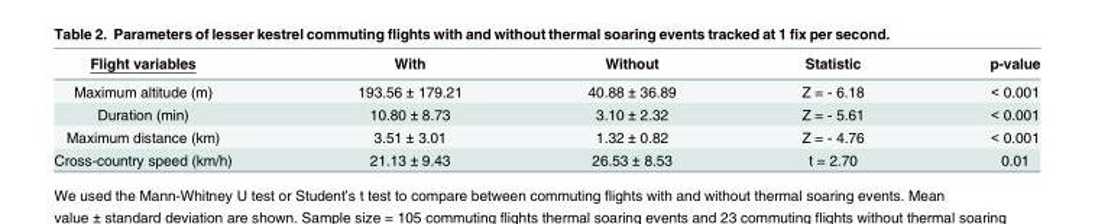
<table><thead><tr><td>Flight variables</td><td>With</td><td>Without</td><td>Statistic</td><td>p-value</td></tr></thead><tbody><tr><td>Maximum altitude (m)</td><td>193.56 ± 179.21</td><td>40.88 ± 36.89</td><td>Z = - 6.18</td><td>&lt; 0.001</td></tr><tr><td>Duration (min)</td><td>10.80 ± 8.73</td><td>3.10 ± 2.32</td><td>Z = - 5.61</td><td>&lt; 0.001</td></tr><tr><td>Maximum distance (km)</td><td>3.51 ± 3.01</td><td>1.32 ± 0.82</td><td>Z = - 4.76</td><td>&lt; 0.001</td></tr><tr><td>Cross-country speed (km/h)</td><td>21.13 ± 9.43</td><td>26.53 ± 8.53</td><td>t = 2.70</td><td>0.01</td></tr></tbody></table>